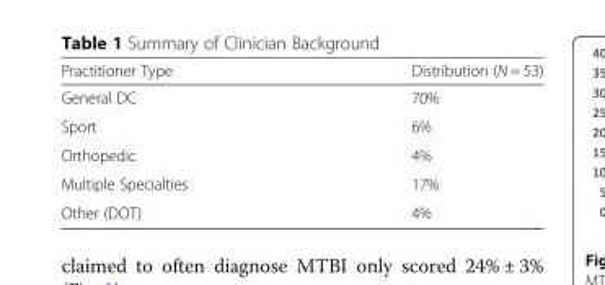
<table><thead><tr><td>Practitioner Type</td><td>Distribution (N = 53)</td></tr></thead><tbody><tr><td>General DC</td><td>70%</td></tr><tr><td>Sport</td><td>6%</td></tr><tr><td>Orthopedic</td><td>4%</td></tr><tr><td>Multiple Specialties</td><td>17%</td></tr><tr><td>Other (DOT)</td><td>4%</td></tr></tbody></table>